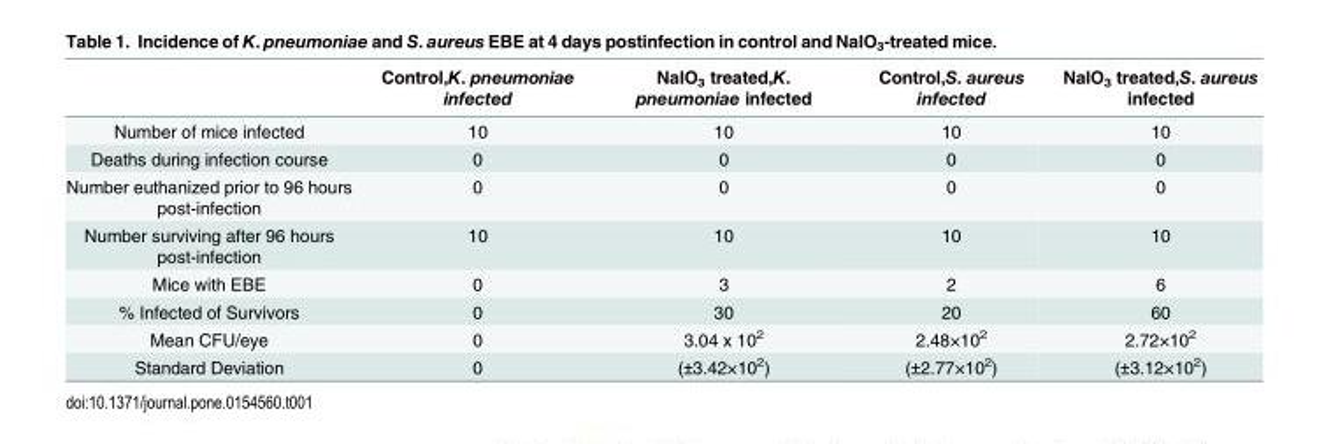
<table><thead><tr><td></td><td>Control,K. pneumoniae infected</td><td>NaIO<sub>3</sub> treated,K. pneumoniae infected</td><td>Control,S. aureus infected</td><td>NaIO<sub>3</sub> treated,S. aureus infected</td></tr></thead><tbody><tr><td>Number of mice infected</td><td>10</td><td>10</td><td>10</td><td>10</td></tr><tr><td>Deaths during infection course</td><td>0</td><td>0</td><td>0</td><td>0</td></tr><tr><td>Number euthanized prior to 96 hours post-infection</td><td>0</td><td>0</td><td>0</td><td>0</td></tr><tr><td>Number surviving after 96 hours post-infection</td><td>10</td><td>10</td><td>10</td><td>10</td></tr><tr><td>Mice with EBE</td><td>0</td><td>3</td><td>2</td><td>6</td></tr><tr><td>% Infected of Survivors</td><td>0</td><td>30</td><td>20</td><td>60</td></tr><tr><td>Mean CFU/eye</td><td>0</td><td>3.04 x 10<sup>2</sup></td><td>2.48×10<sup>2</sup></td><td>2.72×10<sup>2</sup></td></tr><tr><td>Standard Deviation</td><td>0</td><td>(±3.42×10<sup>2</sup>)</td><td>(±2.77×10<sup>2</sup>)</td><td>(±3.12×10<sup>2</sup>)</td></tr></tbody></table>